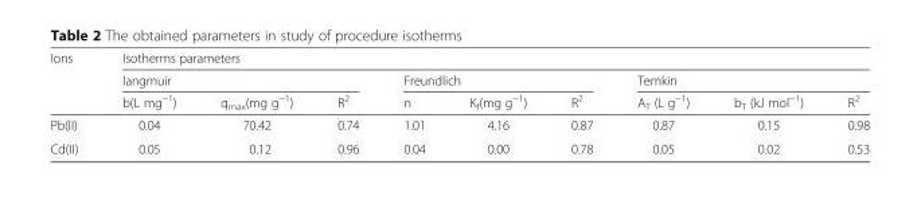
<table><thead><tr><td rowspan="3">Ions</td><td colspan="9">Isotherms parameters</td></tr><tr><td colspan="3">langmuir</td><td colspan="3">Freundlich</td><td colspan="3">Temkin</td></tr><tr><td>b(L mg<sup>−1</sup>)</td><td>q<sub>max</sub>(mg g<sup>−1</sup>)</td><td>R<sup>2</sup></td><td>n</td><td>K<sub>f</sub>(mg g<sup>−1</sup>)</td><td>R<sup>2</sup></td><td>A<sub>T</sub> (L g<sup>−1</sup>)</td><td>b<sub>T</sub> (kJ mol<sup>−1</sup>)</td><td>R<sup>2</sup></td></tr></thead><tbody><tr><td>Pb(II)</td><td>0.04</td><td>70.42</td><td>0.74</td><td>1.01</td><td>4.16</td><td>0.87</td><td>0.87</td><td>0.15</td><td>0.98</td></tr><tr><td>Cd(II)</td><td>0.05</td><td>0.12</td><td>0.96</td><td>0.04</td><td>0.00</td><td>0.78</td><td>0.05</td><td>0.02</td><td>0.53</td></tr></tbody></table>